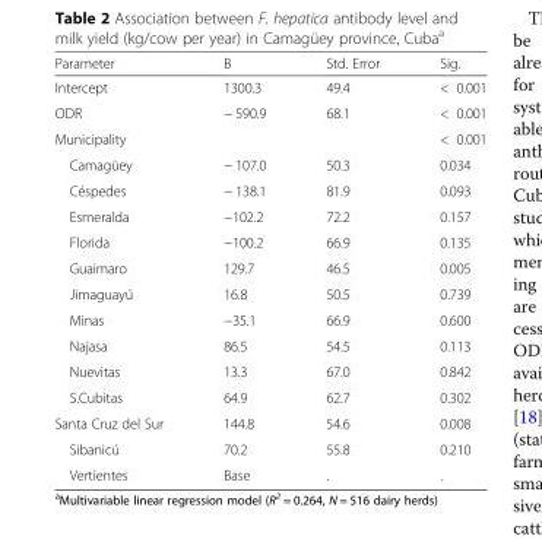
<table><thead><tr><td>Parameter</td><td>B</td><td>Std. Error</td><td>Sig.</td></tr></thead><tbody><tr><td>Intercept</td><td>1300.3</td><td>49.4</td><td>&lt; 0.001</td></tr><tr><td>ODR</td><td>− 590.9</td><td>68.1</td><td>&lt; 0.001</td></tr><tr><td>Municipality</td><td></td><td></td><td>&lt; 0.001</td></tr><tr><td>Camagüey</td><td>− 107.0</td><td>50.3</td><td>0.034</td></tr><tr><td>Céspedes</td><td>− 138.1</td><td>81.9</td><td>0.093</td></tr><tr><td>Esmeralda</td><td>−102.2</td><td>72.2</td><td>0.157</td></tr><tr><td>Florida</td><td>−100.2</td><td>66.9</td><td>0.135</td></tr><tr><td>Guaimaro</td><td>129.7</td><td>46.5</td><td>0.005</td></tr><tr><td>Jimaguayú</td><td>16.8</td><td>50.5</td><td>0.739</td></tr><tr><td>Minas</td><td>−35.1</td><td>66.9</td><td>0.600</td></tr><tr><td>Najasa</td><td>86.5</td><td>54.5</td><td>0.113</td></tr><tr><td>Nuevitas</td><td>13.3</td><td>67.0</td><td>0.842</td></tr><tr><td>S.Cubitas</td><td>64.9</td><td>62.7</td><td>0.302</td></tr><tr><td>Santa Cruz del Sur</td><td>144.8</td><td>54.6</td><td>0.008</td></tr><tr><td>Sibanicú</td><td>70.2</td><td>55.8</td><td>0.210</td></tr><tr><td>Vertientes</td><td>Base</td><td>.</td><td>.</td></tr></tbody></table>